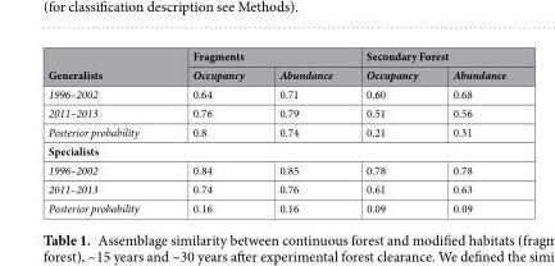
<table><thead><tr><td rowspan="2">Generalists</td><td colspan="2">Fragments</td><td colspan="2">Secondary Forest</td></tr><tr><td>Occupancy</td><td>Abundance</td><td>Occupancy</td><td>Abundance</td></tr></thead><tbody><tr><td>1996–2002</td><td>0.64</td><td>0.71</td><td>0.60</td><td>0.68</td></tr><tr><td>2011–2013</td><td>0.76</td><td>0.79</td><td>0.51</td><td>0.56</td></tr><tr><td>Posterior probability</td><td>0.8</td><td>0.74</td><td>0.21</td><td>0.31</td></tr><tr><td colspan="5">Specialists</td></tr><tr><td>1996–2002</td><td>0.84</td><td>0.85</td><td>0.78</td><td>0.78</td></tr><tr><td>2011–2013</td><td>0.74</td><td>0.76</td><td>0.61</td><td>0.63</td></tr><tr><td>Posterior probability</td><td>0.16</td><td>0.16</td><td>0.09</td><td>0.09</td></tr></tbody></table>